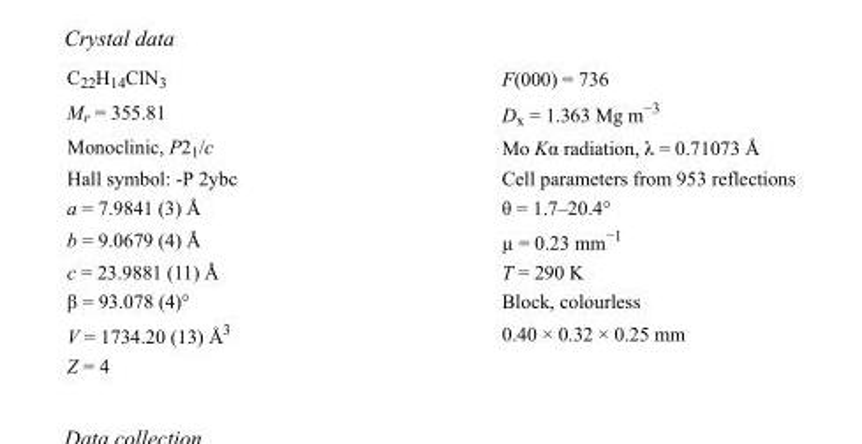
<table><tbody><tr><td>C<sub>22</sub>H<sub>14</sub>ClN<sub>3</sub></td><td>F(000) = 736</td></tr><tr><td>M<sub>r</sub> = 355.81</td><td>D<sub>x</sub> = 1.363 Mg m<sup>−3</sup></td></tr><tr><td>Monoclinic, P2<sub>1</sub>/c</td><td>Mo Kα radiation, λ = 0.71073 Å</td></tr><tr><td>Hall symbol: -P 2ybc</td><td>Cell parameters from 953 reflections</td></tr><tr><td>a = 7.9841 (3) Å</td><td>θ = 1.7–20.4°</td></tr><tr><td>b = 9.0679 (4) Å</td><td>µ = 0.23 mm<sup>−1</sup></td></tr><tr><td>c = 23.9881 (11) Å</td><td>T = 290 K</td></tr><tr><td>β = 93.078 (4)°</td><td>Block, colourless</td></tr><tr><td>V = 1734.20 (13) Å<sup>3</sup></td><td>0.40 × 0.32 × 0.25 mm</td></tr><tr><td>Z = 4</td><td></td></tr></tbody></table>